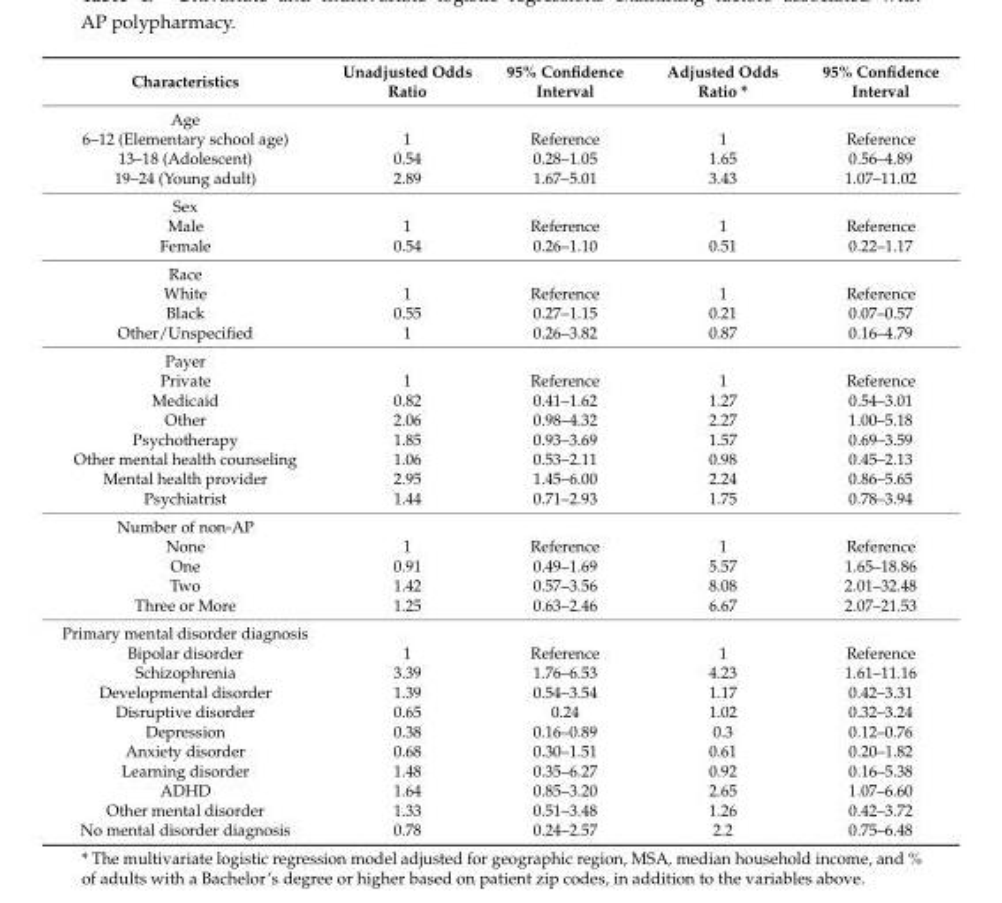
<table><thead><tr><td>Characteristics</td><td>Unadjusted Odds Ratio</td><td>95% Confidence Interval</td><td>Adjusted Odds Ratio *</td><td>95% Confidence Interval</td></tr></thead><tbody><tr><td colspan="5">Age</td></tr><tr><td>6–12 (Elementary school age)</td><td>1</td><td>Reference</td><td>1</td><td>Reference</td></tr><tr><td>13–18 (Adolescent)</td><td>0.54</td><td>0.28–1.05</td><td>1.65</td><td>0.56–4.89</td></tr><tr><td>19–24 (Young adult)</td><td>2.89</td><td>1.67–5.01</td><td>3.43</td><td>1.07–11.02</td></tr><tr><td colspan="5">Sex</td></tr><tr><td>Male</td><td>1</td><td>Reference</td><td>1</td><td>Reference</td></tr><tr><td>Female</td><td>0.54</td><td>0.26–1.10</td><td>0.51</td><td>0.22–1.17</td></tr><tr><td colspan="5">Race</td></tr><tr><td>White</td><td>1</td><td>Reference</td><td>1</td><td>Reference</td></tr><tr><td>Black</td><td>0.55</td><td>0.27–1.15</td><td>0.21</td><td>0.07–0.57</td></tr><tr><td>Other/Unspecified</td><td>1</td><td>0.26–3.82</td><td>0.87</td><td>0.16–4.79</td></tr><tr><td colspan="5">Payer</td></tr><tr><td>Private</td><td>1</td><td>Reference</td><td>1</td><td>Reference</td></tr><tr><td>Medicaid</td><td>0.82</td><td>0.41–1.62</td><td>1.27</td><td>0.54–3.01</td></tr><tr><td>Other</td><td>2.06</td><td>0.98–4.32</td><td>2.27</td><td>1.00–5.18</td></tr><tr><td>Psychotherapy</td><td>1.85</td><td>0.93–3.69</td><td>1.57</td><td>0.69–3.59</td></tr><tr><td>Other mental health counseling</td><td>1.06</td><td>0.53–2.11</td><td>0.98</td><td>0.45–2.13</td></tr><tr><td>Mental health provider</td><td>2.95</td><td>1.45–6.00</td><td>2.24</td><td>0.86–5.65</td></tr><tr><td>Psychiatrist</td><td>1.44</td><td>0.71–2.93</td><td>1.75</td><td>0.78–3.94</td></tr><tr><td colspan="5">Number of non-AP</td></tr><tr><td>None</td><td>1</td><td>Reference</td><td>1</td><td>Reference</td></tr><tr><td>One</td><td>0.91</td><td>0.49–1.69</td><td>5.57</td><td>1.65–18.86</td></tr><tr><td>Two</td><td>1.42</td><td>0.57–3.56</td><td>8.08</td><td>2.01–32.48</td></tr><tr><td>Three or More</td><td>1.25</td><td>0.63–2.46</td><td>6.67</td><td>2.07–21.53</td></tr><tr><td colspan="5">Primary mental disorder diagnosis</td></tr><tr><td>Bipolar disorder</td><td>1</td><td>Reference</td><td>1</td><td>Reference</td></tr><tr><td>Schizophrenia</td><td>3.39</td><td>1.76–6.53</td><td>4.23</td><td>1.61–11.16</td></tr><tr><td>Developmental disorder</td><td>1.39</td><td>0.54–3.54</td><td>1.17</td><td>0.42–3.31</td></tr><tr><td>Disruptive disorder</td><td>0.65</td><td>0.24</td><td>1.02</td><td>0.32–3.24</td></tr><tr><td>Depression</td><td>0.38</td><td>0.16–0.89</td><td>0.3</td><td>0.12–0.76</td></tr><tr><td>Anxiety disorder</td><td>0.68</td><td>0.30–1.51</td><td>0.61</td><td>0.20–1.82</td></tr><tr><td>Learning disorder</td><td>1.48</td><td>0.35–6.27</td><td>0.92</td><td>0.16–5.38</td></tr><tr><td>ADHD</td><td>1.64</td><td>0.85–3.20</td><td>2.65</td><td>1.07–6.60</td></tr><tr><td>Other mental disorder</td><td>1.33</td><td>0.51–3.48</td><td>1.26</td><td>0.42–3.72</td></tr><tr><td>No mental disorder diagnosis</td><td>0.78</td><td>0.24–2.57</td><td>2.2</td><td>0.75–6.48</td></tr></tbody></table>